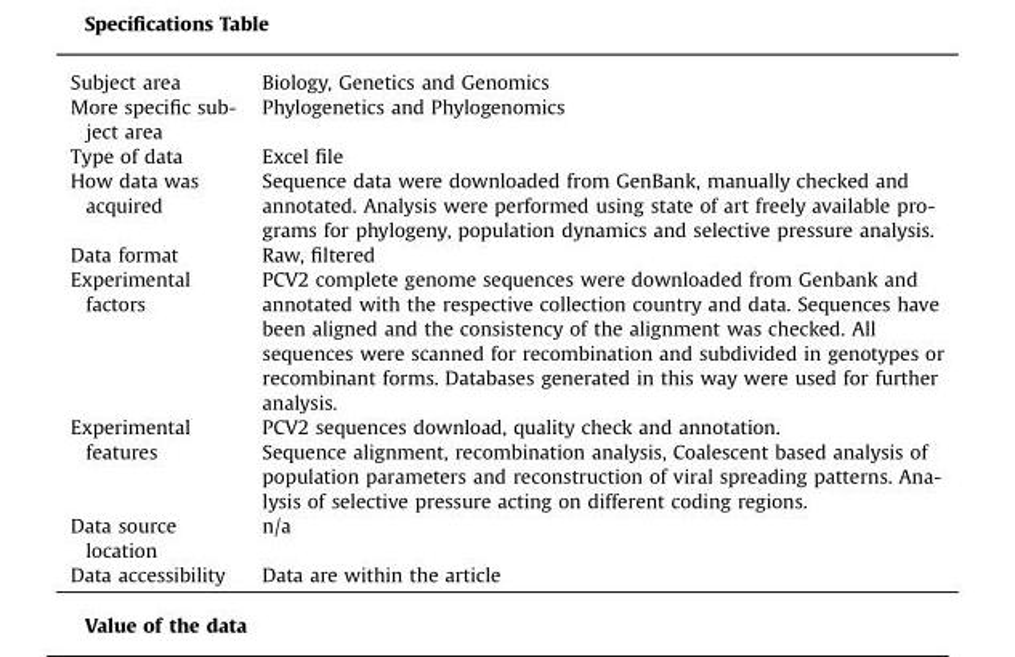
<table><tbody><tr><td>Subject area</td><td>Biology, Genetics and Genomics</td></tr><tr><td>More specific sub- ject area</td><td>Phylogenetics and Phylogenomics</td></tr><tr><td>Type of data</td><td>Excel file</td></tr><tr><td>How data was acquired</td><td>Sequence data were downloaded from GenBank, manually checked and annotated. Analysis were performed using state of art freely available pro- grams for phylogeny, population dynamics and selective pressure analysis.</td></tr><tr><td>Data format</td><td>Raw, filtered</td></tr><tr><td>Experimental factors</td><td>PCV2 complete genome sequences were downloaded from Genbank and annotated with the respective collection country and data. Sequences have been aligned and the consistency of the alignment was checked. All sequences were scanned for recombination and subdivided in genotypes or recombinant forms. Databases generated in this way were used for further analysis.</td></tr><tr><td rowspan="2">Experimental features</td><td>PCV2 sequences download, quality check and annotation.</td></tr><tr><td>Sequence alignment, recombination analysis, Coalescent based analysis of population parameters and reconstruction of viral spreading patterns. Ana- lysis of selective pressure acting on different coding regions.</td></tr><tr><td>Data source location</td><td>n/a</td></tr><tr><td>Data accessibility</td><td>Data are within the article</td></tr></tbody></table>